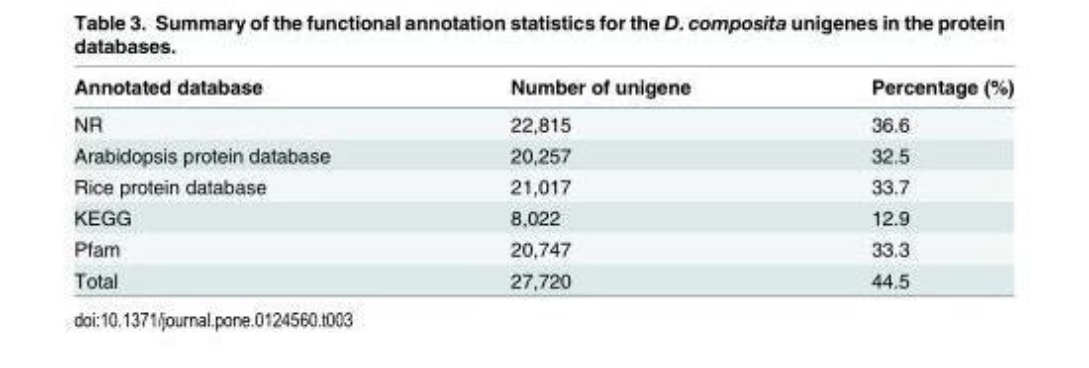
<table><thead><tr><td>Annotated database</td><td>Number of unigene</td><td>Percentage (%)</td></tr></thead><tbody><tr><td>NR</td><td>22,815</td><td>36.6</td></tr><tr><td>Arabidopsis protein database</td><td>20,257</td><td>32.5</td></tr><tr><td>Rice protein database</td><td>21,017</td><td>33.7</td></tr><tr><td>KEGG</td><td>8,022</td><td>12.9</td></tr><tr><td>Pfam</td><td>20,747</td><td>33.3</td></tr><tr><td>Total</td><td>27,720</td><td>44.5</td></tr></tbody></table>